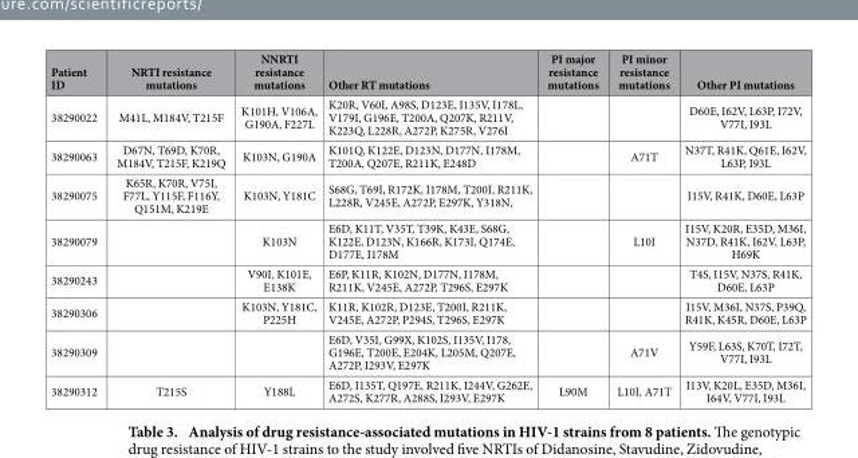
<table><thead><tr><td>Patient ID</td><td>NRTI resistance mutations</td><td>NNRTI resistance mutations</td><td>Other RT mutations</td><td>PI major resistance mutations</td><td>PI minor resistance mutations</td><td>Other PI mutations</td></tr></thead><tbody><tr><td>38290022</td><td>M41L, M184V, T215F</td><td>K101H, V106A, G190A, F227L</td><td>K20R, V60I, A98S, D123E, I135V, I178L, V179I, G196E, T200A, Q207K, R211V, K223Q, L228R, A272P, K275R, V276I</td><td></td><td></td><td>D60E, I62V, L63P, I72V, V77I, I93L</td></tr><tr><td>38290063</td><td>D67N, T69D, K70R, M184V, T215F, K219Q</td><td>K103N, G190A</td><td>K101Q, K122E, D123N, D177N, I178M, T200A, Q207E, R211K, E248D</td><td></td><td>A71T</td><td>N37T, R41K, Q61E, I62V, L63P, I93L</td></tr><tr><td>38290075</td><td>K65R, K70R, V75I, F77L, Y115F, F116Y, Q151M, K219E</td><td>K103N, Y181C</td><td>S68G, T69I, R172K, I178M, T200I, R211K, L228R, V245E, A272P, E297K, Y318N,</td><td></td><td></td><td>I15V, R41K, D60E, L63P</td></tr><tr><td>38290079</td><td></td><td>K103N</td><td>E6D, K11T, V35T, T39K, K43E, S68G, K122E, D123N, K166R, K173I, Q174E, D177E, I178M</td><td></td><td>L10I</td><td>I15V, K20R, E35D, M36I, N37D, R41K, I62V, L63P, H69K</td></tr><tr><td>38290243</td><td></td><td>V90I, K101E, E138K</td><td>E6P, K11R, K102N, D177N, I178M, R211K, V245E, A272P, T296S, E297K</td><td></td><td></td><td>T4S, I15V, N37S, R41K, D60E, L63P</td></tr><tr><td>38290306</td><td></td><td>K103N, Y181C, P225H</td><td>K11R, K102R, D123E, T200I, R211K, V245E, A272P, P294S, T296S, E297K</td><td></td><td></td><td>I15V, M36I, N37S, P39Q, R41K, K45R, D60E, L63P</td></tr><tr><td>38290309</td><td></td><td></td><td>E6D, V35I, G99X, K102S, I135V, I178, G196E, T200E, E204K, L205M, Q207E, A272P, I293V, E297K</td><td></td><td>A71V</td><td>Y59F, L63S, K70T, I72T, V77I, I93L</td></tr><tr><td>38290312</td><td>T215S</td><td>Y188L</td><td>E6D, I135T, Q197E, R211K, I244V, G262E, A272S, K277R, A288S, I293V, E297K</td><td>L90M</td><td>L10I, A71T</td><td>I13V, K20L, E35D, M36I, I64V, V77I, I93L</td></tr></tbody></table>